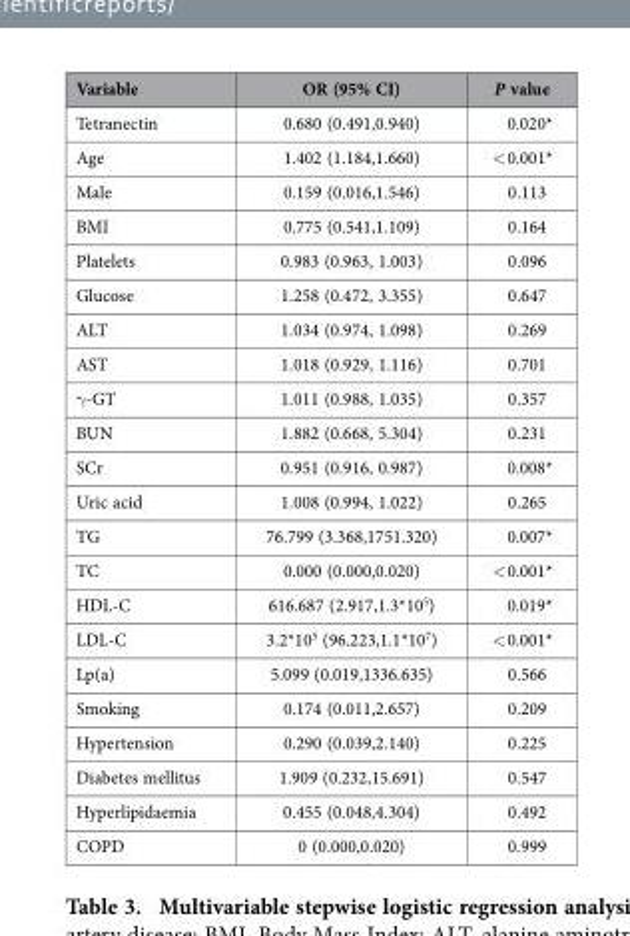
<table><thead><tr><td>Variable</td><td>OR (95% CI)</td><td>P value</td></tr></thead><tbody><tr><td>Tetranectin</td><td>0.680 (0.491,0.940)</td><td>0.020*</td></tr><tr><td>Age</td><td>1.402 (1.184,1.660)</td><td>&lt; 0.001*</td></tr><tr><td>Male</td><td>0.159 (0.016,1.546)</td><td>0.113</td></tr><tr><td>BMI</td><td>0.775 (0.541,1.109)</td><td>0.164</td></tr><tr><td>Platelets</td><td>0.983 (0.963, 1.003)</td><td>0.096</td></tr><tr><td>Glucose</td><td>1.258 (0.472, 3.355)</td><td>0.647</td></tr><tr><td>ALT</td><td>1.034 (0.974, 1.098)</td><td>0.269</td></tr><tr><td>AST</td><td>1.018 (0.929, 1.116)</td><td>0.701</td></tr><tr><td>γ -GT</td><td>1.011 (0.988, 1.035)</td><td>0.357</td></tr><tr><td>BUN</td><td>1.882 (0.668, 5.304)</td><td>0.231</td></tr><tr><td>SCr</td><td>0.951 (0.916, 0.987)</td><td>0.008*</td></tr><tr><td>Uric acid</td><td>1.008 (0.994, 1.022)</td><td>0.265</td></tr><tr><td>TG</td><td>76.799 (3.368,1751.320)</td><td>0.007*</td></tr><tr><td>TC</td><td>0.000 (0.000,0.020)</td><td>&lt; 0.001*</td></tr><tr><td>HDL-C</td><td>616.687 (2.917,1.3*10<sup>5</sup>)</td><td>0.019*</td></tr><tr><td>LDL-C</td><td>3.2*10<sup>5</sup> (96.223,1.1*10<sup>7</sup>)</td><td>&lt; 0.001*</td></tr><tr><td>Lp(a)</td><td>5.099 (0.019,1336.635)</td><td>0.566</td></tr><tr><td>Smoking</td><td>0.174 (0.011,2.657)</td><td>0.209</td></tr><tr><td>Hypertension</td><td>0.290 (0.039,2.140)</td><td>0.225</td></tr><tr><td>Diabetes mellitus</td><td>1.909 (0.232,15.691)</td><td>0.547</td></tr><tr><td>Hyperlipidaemia</td><td>0.455 (0.048,4.304)</td><td>0.492</td></tr><tr><td>COPD</td><td>0 (0.000,0.020)</td><td>0.999</td></tr></tbody></table>